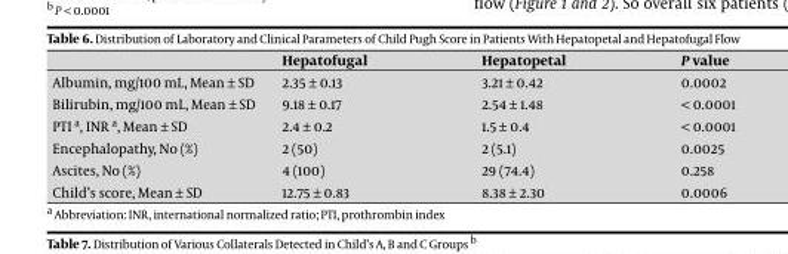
<table><thead><tr><td></td><td>Hepatofugal</td><td>Hepatopetal</td><td>P value</td></tr></thead><tbody><tr><td>Albumin, mg/100 mL, Mean ± SD</td><td>2.35 ± 0.13</td><td>3.21 ± 0.42</td><td>0.0002</td></tr><tr><td>Bilirubin, mg/100 mL, Mean ± SD</td><td>9.18 ± 0.17</td><td>2.54 ± 1.48</td><td>&lt; 0.0001</td></tr><tr><td>PTI a, INR a, Mean ± SD</td><td>2.4 ± 0.2</td><td>1.5 ± 0.4</td><td>&lt; 0.0001</td></tr><tr><td>Encephalopathy, No (%)</td><td>2 (50)</td><td>2 (5.1)</td><td>0.0025</td></tr><tr><td>Ascites, No (%)</td><td>4 (100)</td><td>29 (74.4)</td><td>0.258</td></tr><tr><td>Child’s score, Mean ± SD</td><td>12.75 ± 0.83</td><td>8.38 ± 2.30</td><td>0.0006</td></tr></tbody></table>